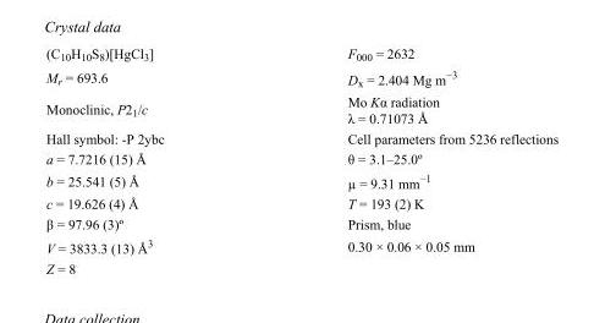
<table><tbody><tr><td>(C<sub>10</sub>H<sub>10</sub>S<sub>8</sub>)[HgCl<sub>3</sub>]</td><td>F000 = 2632</td></tr><tr><td>M<sub>r</sub> = 693.6</td><td>D<sub>x</sub> = 2.404 Mg m<sup>−3</sup></td></tr><tr><td>Monoclinic, P2<sub>1</sub>/c</td><td>Mo Kα radiation λ = 0.71073 Å</td></tr><tr><td>Hall symbol: -P 2ybc</td><td>Cell parameters from 5236 reflections</td></tr><tr><td>a = 7.7216 (15) Å</td><td>θ = 3.1–25.0º</td></tr><tr><td>b = 25.541 (5) Å</td><td>µ = 9.31 mm<sup>−1</sup></td></tr><tr><td>c = 19.626 (4) Å</td><td>T = 193 (2) K</td></tr><tr><td>β = 97.96 (3)º</td><td>Prism, blue</td></tr><tr><td>V = 3833.3 (13) Å<sup>3</sup></td><td>0.30 × 0.06 × 0.05 mm</td></tr><tr><td>Z = 8</td><td></td></tr></tbody></table>